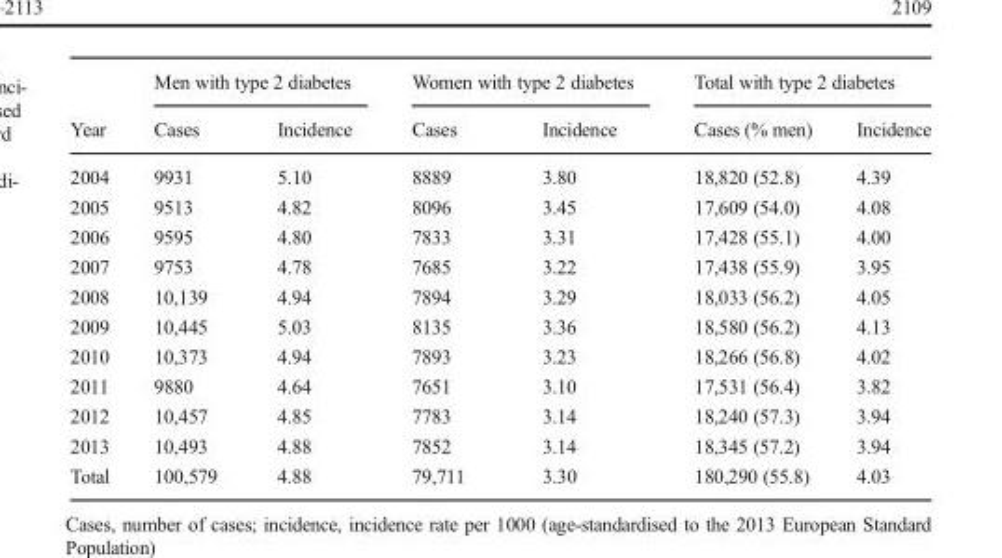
<table><thead><tr><td rowspan="2">Year</td><td colspan="2">Men with type 2 diabetes</td><td colspan="2">Women with type 2 diabetes</td><td colspan="2">Total with type 2 diabetes</td></tr><tr><td>Cases</td><td>Incidence</td><td>Cases</td><td>Incidence</td><td>Cases (% men)</td><td>Incidence</td></tr></thead><tbody><tr><td>2004</td><td>9931</td><td>5.10</td><td>8889</td><td>3.80</td><td>18,820 (52.8)</td><td>4.39</td></tr><tr><td>2005</td><td>9513</td><td>4.82</td><td>8096</td><td>3.45</td><td>17,609 (54.0)</td><td>4.08</td></tr><tr><td>2006</td><td>9595</td><td>4.80</td><td>7833</td><td>3.31</td><td>17,428 (55.1)</td><td>4.00</td></tr><tr><td>2007</td><td>9753</td><td>4.78</td><td>7685</td><td>3.22</td><td>17,438 (55.9)</td><td>3.95</td></tr><tr><td>2008</td><td>10,139</td><td>4.94</td><td>7894</td><td>3.29</td><td>18,033 (56.2)</td><td>4.05</td></tr><tr><td>2009</td><td>10,445</td><td>5.03</td><td>8135</td><td>3.36</td><td>18,580 (56.2)</td><td>4.13</td></tr><tr><td>2010</td><td>10,373</td><td>4.94</td><td>7893</td><td>3.23</td><td>18,266 (56.8)</td><td>4.02</td></tr><tr><td>2011</td><td>9880</td><td>4.64</td><td>7651</td><td>3.10</td><td>17,531 (56.4)</td><td>3.82</td></tr><tr><td>2012</td><td>10,457</td><td>4.85</td><td>7783</td><td>3.14</td><td>18,240 (57.3)</td><td>3.94</td></tr><tr><td>2013</td><td>10,493</td><td>4.88</td><td>7852</td><td>3.14</td><td>18,345 (57.2)</td><td>3.94</td></tr><tr><td>Total</td><td>100,579</td><td>4.88</td><td>79,711</td><td>3.30</td><td>180,290 (55.8)</td><td>4.03</td></tr></tbody></table>